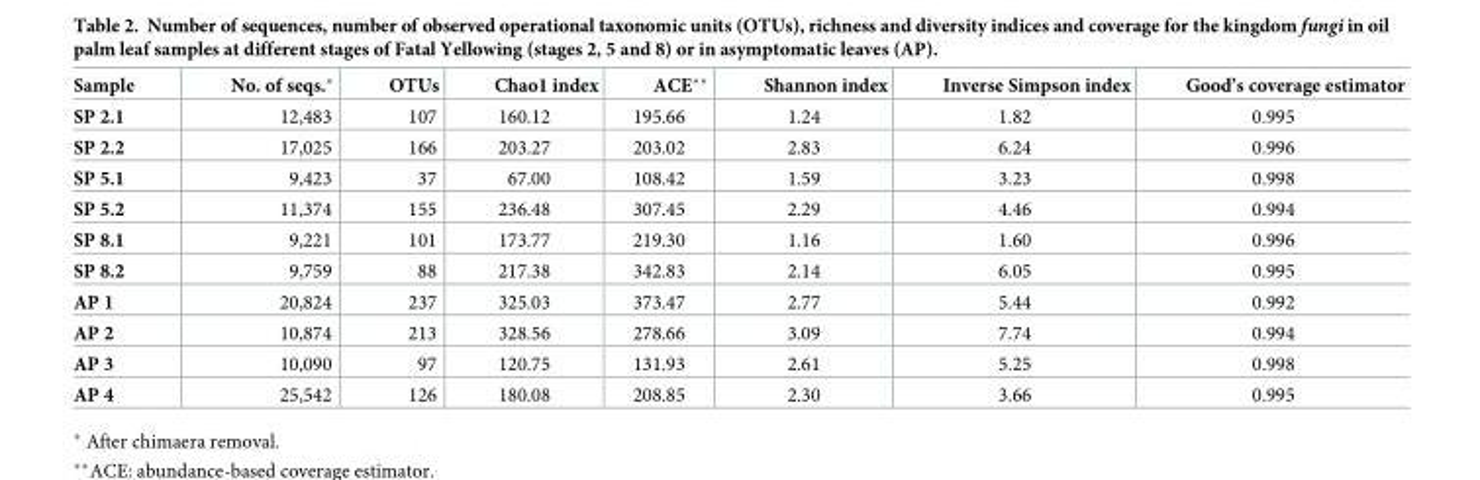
<table><thead><tr><td>Sample</td><td>No. of seqs.*</td><td>OTUs</td><td>Chao1 index</td><td>ACE**</td><td>Shannon index</td><td>Inverse Simpson index</td><td>Good’s coverage estimator</td></tr></thead><tbody><tr><td>SP 2.1</td><td>12,483</td><td>107</td><td>160.12</td><td>195.66</td><td>1.24</td><td>1.82</td><td>0.995</td></tr><tr><td>SP 2.2</td><td>17,025</td><td>166</td><td>203.27</td><td>203.02</td><td>2.83</td><td>6.24</td><td>0.996</td></tr><tr><td>SP 5.1</td><td>9,423</td><td>37</td><td>67.00</td><td>108.42</td><td>1.59</td><td>3.23</td><td>0.998</td></tr><tr><td>SP 5.2</td><td>11,374</td><td>155</td><td>236.48</td><td>307.45</td><td>2.29</td><td>4.46</td><td>0.994</td></tr><tr><td>SP 8.1</td><td>9,221</td><td>101</td><td>173.77</td><td>219.30</td><td>1.16</td><td>1.60</td><td>0.996</td></tr><tr><td>SP 8.2</td><td>9,759</td><td>88</td><td>217.38</td><td>342.83</td><td>2.14</td><td>6.05</td><td>0.995</td></tr><tr><td>AP 1</td><td>20,824</td><td>237</td><td>325.03</td><td>373.47</td><td>2.77</td><td>5.44</td><td>0.992</td></tr><tr><td>AP 2</td><td>10,874</td><td>213</td><td>328.56</td><td>278.66</td><td>3.09</td><td>7.74</td><td>0.994</td></tr><tr><td>AP 3</td><td>10,090</td><td>97</td><td>120.75</td><td>131.93</td><td>2.61</td><td>5.25</td><td>0.998</td></tr><tr><td>AP 4</td><td>25,542</td><td>126</td><td>180.08</td><td>208.85</td><td>2.30</td><td>3.66</td><td>0.995</td></tr></tbody></table>